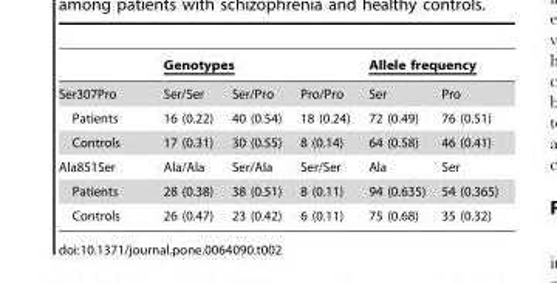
<table><thead><tr><td rowspan="2">Ser307Pro</td><td colspan="3">Genotypes</td><td colspan="2">Allele frequency</td></tr><tr><td>Ser/Ser</td><td>Ser/Pro</td><td>Pro/Pro</td><td>Ser</td><td>Pro</td></tr></thead><tbody><tr><td>Patients</td><td>16 (0.22)</td><td>40 (0.54)</td><td>18 (0.24)</td><td>72 (0.49)</td><td>76 (0.51)</td></tr><tr><td>Controls</td><td>17 (0.31)</td><td>30 (0.55)</td><td>8 (0.14)</td><td>64 (0.58)</td><td>46 (0.41)</td></tr><tr><td>Ala851Ser</td><td>Ala/Ala</td><td>Ser/Ala</td><td>Ser/Ser</td><td>Ala</td><td>Ser</td></tr><tr><td>Patients</td><td>28 (0.38)</td><td>38 (0.51)</td><td>8 (0.11)</td><td>94 (0.635)</td><td>54 (0.365)</td></tr><tr><td>Controls</td><td>26 (0.47)</td><td>23 (0.42)</td><td>6 (0.11)</td><td>75 (0.68)</td><td>35 (0.32)</td></tr></tbody></table>